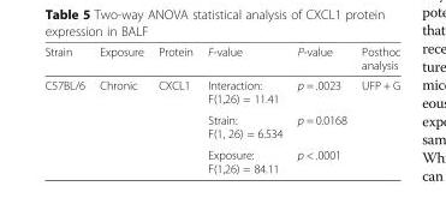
<table><thead><tr><td>Strain</td><td>Exposure</td><td>Protein</td><td>F-value</td><td>P-value</td><td>Posthoc analysis</td></tr></thead><tbody><tr><td rowspan="3">C57BL/6</td><td>Chronic</td><td>CXCL1</td><td>Interaction: F(1,26) = 11.41</td><td>p = .0023</td><td>UFP + G</td></tr><tr><td></td><td></td><td>Strain: F(1, 26) = 6.534</td><td>p = 0.0168</td><td></td></tr><tr><td></td><td></td><td>Exposure: F(1,26) = 84.11</td><td>p &lt; .0001</td><td></td></tr></tbody></table>